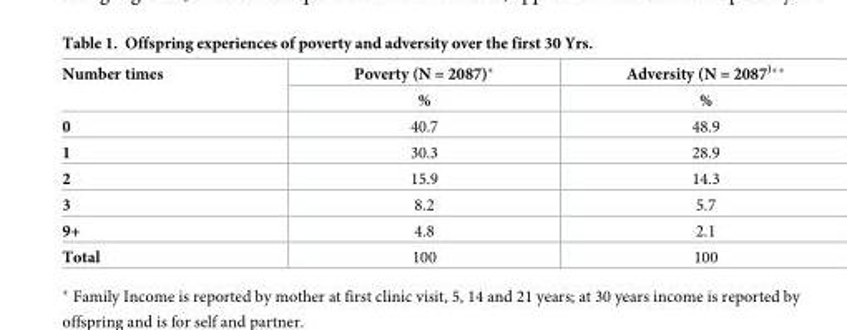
<table><thead><tr><td rowspan="2">Number times</td><td rowspan="2">Poverty (N = 2087)* %</td><td rowspan="2">Adversity (N = 2087<sup>)</sup>** %</td></tr><tr></tr></thead><tbody><tr><td>0</td><td>40.7</td><td>48.9</td></tr><tr><td>1</td><td>30.3</td><td>28.9</td></tr><tr><td>2</td><td>15.9</td><td>14.3</td></tr><tr><td>3</td><td>8.2</td><td>5.7</td></tr><tr><td>9+</td><td>4.8</td><td>2.1</td></tr><tr><td>Total</td><td>100</td><td>100</td></tr></tbody></table>